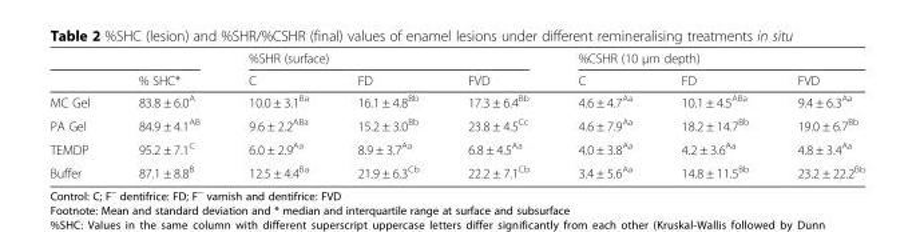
<table><thead><tr><td rowspan="2"></td><td rowspan="2">% SHC*</td><td colspan="3">%SHR (surface)</td><td colspan="3">%CSHR (10 μm depth)</td></tr><tr><td>C</td><td>FD</td><td>FVD</td><td>C</td><td>FD</td><td>FVD</td></tr></thead><tbody><tr><td>MC Gel</td><td>83.8 ± 6.0<sup>A</sup></td><td>10.0 ± 3.1<sup>Ba</sup></td><td>16.1 ± 4.8<sup>Bb</sup></td><td>17.3 ± 6.4<sup>Bb</sup></td><td>4.6 ± 4.7<sup>Aa</sup></td><td>10.1 ± 4.5<sup>ABa</sup></td><td>9.4 ± 6.3<sup>Aa</sup></td></tr><tr><td>PA Gel</td><td>84.9 ± 4.1<sup>AB</sup></td><td>9.6 ± 2.2<sup>ABa</sup></td><td>15.2 ± 3.0<sup>Bb</sup></td><td>23.8 ± 4.5<sup>Cc</sup></td><td>4.6 ± 7.9<sup>Aa</sup></td><td>18.2 ± 14.7<sup>Bb</sup></td><td>19.0 ± 6.7<sup>Bb</sup></td></tr><tr><td>TEMDP</td><td>95.2 ± 7.1<sup>C</sup></td><td>6.0 ± 2.9<sup>Aa</sup></td><td>8.9 ± 3.7<sup>Aa</sup></td><td>6.8 ± 4.5<sup>Aa</sup></td><td>4.0 ± 3.8<sup>Aa</sup></td><td>4.2 ± 3.6<sup>Aa</sup></td><td>4.8 ± 3.4<sup>Aa</sup></td></tr><tr><td>Buffer</td><td>87.1 ± 8.8<sup>B</sup></td><td>12.5 ± 4.4<sup>Ba</sup></td><td>21.9 ± 6.3<sup>Cb</sup></td><td>22.2 ± 7.1<sup>Cb</sup></td><td>3.4 ± 5.6<sup>Aa</sup></td><td>14.8 ± 11.5<sup>Bb</sup></td><td>23.2 ± 22.2<sup>Bb</sup></td></tr></tbody></table>